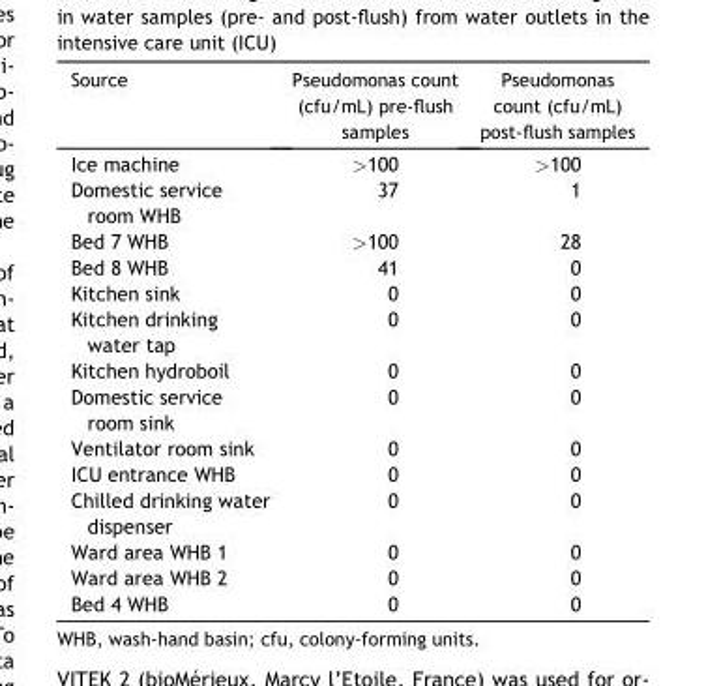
<table><thead><tr><td>Source</td><td>Pseudomonas count (cfu/mL) pre-flush samples</td><td>Pseudomonas count (cfu/mL) post-flush samples</td></tr></thead><tbody><tr><td>Ice machine</td><td>&gt;100</td><td>&gt;100</td></tr><tr><td>Domestic service room WHB</td><td>37</td><td>1</td></tr><tr><td>Bed 7 WHB</td><td>&gt;100</td><td>28</td></tr><tr><td>Bed 8 WHB</td><td>41</td><td>0</td></tr><tr><td>Kitchen sink</td><td>0</td><td>0</td></tr><tr><td>Kitchen drinking water tap</td><td>0</td><td>0</td></tr><tr><td>Kitchen hydroboil</td><td>0</td><td>0</td></tr><tr><td>Domestic service room sink</td><td>0</td><td>0</td></tr><tr><td>Ventilator room sink</td><td>0</td><td>0</td></tr><tr><td>ICU entrance WHB</td><td>0</td><td>0</td></tr><tr><td>Chilled drinking water dispenser</td><td>0</td><td>0</td></tr><tr><td>Ward area WHB 1</td><td>0</td><td>0</td></tr><tr><td>Ward area WHB 2</td><td>0</td><td>0</td></tr><tr><td>Bed 4 WHB</td><td>0</td><td>0</td></tr></tbody></table>